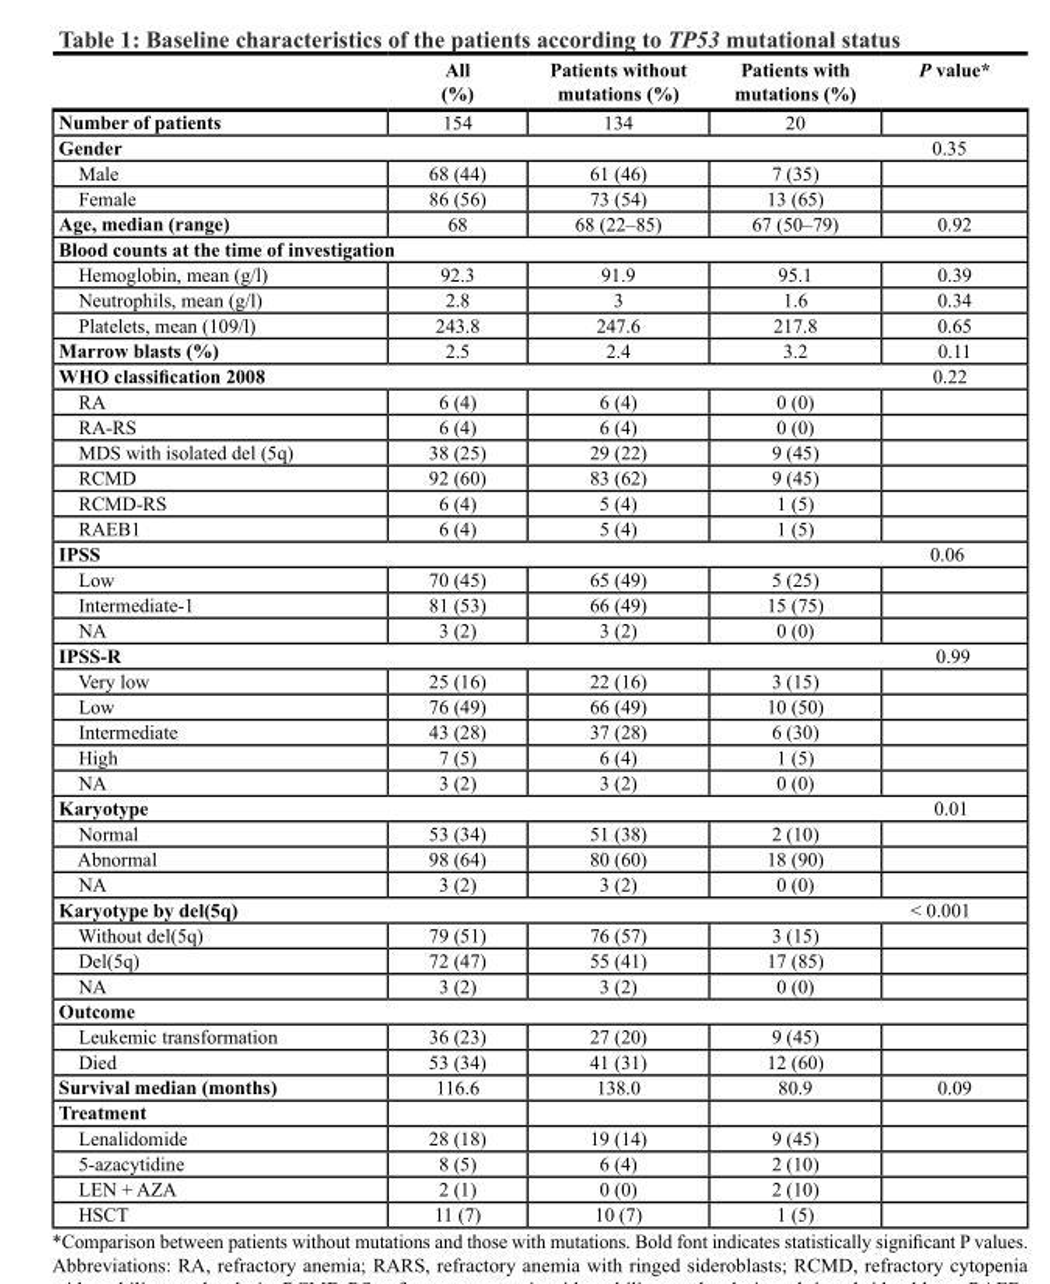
<table><thead><tr><td></td><td>All (%)</td><td>Patients without mutations (%)</td><td>Patients with mutations (%)</td><td>P value*</td></tr></thead><tbody><tr><td>Number of patients</td><td>154</td><td>134</td><td>20</td><td></td></tr><tr><td colspan="4">Gender</td><td>0.35</td></tr><tr><td>Male</td><td>68 (44)</td><td>61 (46)</td><td>7 (35)</td><td></td></tr><tr><td>Female</td><td>86 (56)</td><td>73 (54)</td><td>13 (65)</td><td></td></tr><tr><td>Age, median (range)</td><td>68</td><td>68 (22–85)</td><td>67 (50–79)</td><td>0.92</td></tr><tr><td colspan="5">blood counts at the time of investigation</td></tr><tr><td>Hemoglobin, mean (g/l)</td><td>92.3</td><td>91.9</td><td>95.1</td><td>0.39</td></tr><tr><td>Neutrophils, mean (g/l)</td><td>2.8</td><td>3</td><td>1.6</td><td>0.34</td></tr><tr><td>Platelets, mean (109/l)</td><td>243.8</td><td>247.6</td><td>217.8</td><td>0.65</td></tr><tr><td>Marrow blasts (%)</td><td>2.5</td><td>2.4</td><td>3.2</td><td>0.11</td></tr><tr><td colspan="4">WHO classification 2008</td><td>0.22</td></tr><tr><td>RA</td><td>6 (4)</td><td>6 (4)</td><td>0 (0)</td><td></td></tr><tr><td>RA-RS</td><td>6 (4)</td><td>6 (4)</td><td>0 (0)</td><td></td></tr><tr><td>MDS with isolated del (5q)</td><td>38 (25)</td><td>29 (22)</td><td>9 (45)</td><td></td></tr><tr><td>RCMD</td><td>92 (60)</td><td>83 (62)</td><td>9 (45)</td><td></td></tr><tr><td>RCMD-RS</td><td>6 (4)</td><td>5 (4)</td><td>1 (5)</td><td></td></tr><tr><td>RAEB1</td><td>6 (4)</td><td>5 (4)</td><td>1 (5)</td><td></td></tr><tr><td colspan="4">IPss</td><td>0.06</td></tr><tr><td>Low</td><td>70 (45)</td><td>65 (49)</td><td>5 (25)</td><td></td></tr><tr><td>Intermediate-1</td><td>81 (53)</td><td>66 (49)</td><td>15 (75)</td><td></td></tr><tr><td>NA</td><td>3 (2)</td><td>3 (2)</td><td>0 (0)</td><td></td></tr><tr><td colspan="4">IPSS-R</td><td>0.99</td></tr><tr><td>Very low</td><td>25 (16)</td><td>22 (16)</td><td>3 (15)</td><td></td></tr><tr><td>Low</td><td>76 (49)</td><td>66 (49)</td><td>10 (50)</td><td></td></tr><tr><td>Intermediate</td><td>43 (28)</td><td>37 (28)</td><td>6 (30)</td><td></td></tr><tr><td>High</td><td>7 (5)</td><td>6 (4)</td><td>1 (5)</td><td></td></tr><tr><td>NA</td><td>3 (2)</td><td>3 (2)</td><td>0 (0)</td><td></td></tr><tr><td colspan="4">Karyotype</td><td>0.01</td></tr><tr><td>Normal</td><td>53 (34)</td><td>51 (38)</td><td>2 (10)</td><td></td></tr><tr><td>Abnormal</td><td>98 (64)</td><td>80 (60)</td><td>18 (90)</td><td></td></tr><tr><td>NA</td><td>3 (2)</td><td>3 (2)</td><td>0 (0)</td><td></td></tr><tr><td colspan="4">Karyotype by del(5q)</td><td>&lt; 0.001</td></tr><tr><td>Without del(5q)</td><td>79 (51)</td><td>76 (57)</td><td>3 (15)</td><td></td></tr><tr><td>Del(5q)</td><td>72 (47)</td><td>55 (41)</td><td>17 (85)</td><td></td></tr><tr><td>NA</td><td>3 (2)</td><td>3 (2)</td><td>0 (0)</td><td></td></tr><tr><td colspan="5">outcome</td></tr><tr><td>Leukemic transformation</td><td>36 (23)</td><td>27 (20)</td><td>9 (45)</td><td></td></tr><tr><td>Died</td><td>53 (34)</td><td>41 (31)</td><td>12 (60)</td><td></td></tr><tr><td>survival median (months)</td><td>116.6</td><td>138.0</td><td>80.9</td><td>0.09</td></tr><tr><td colspan="5">treatment</td></tr><tr><td>Lenalidomide</td><td>28 (18)</td><td>19 (14)</td><td>9 (45)</td><td></td></tr><tr><td>5-azacytidine</td><td>8 (5)</td><td>6 (4)</td><td>2 (10)</td><td></td></tr><tr><td>LEN + AZA</td><td>2 (1)</td><td>0 (0)</td><td>2 (10)</td><td></td></tr><tr><td>HSCT</td><td>11 (7)</td><td>10 (7)</td><td>1 (5)</td><td></td></tr></tbody></table>